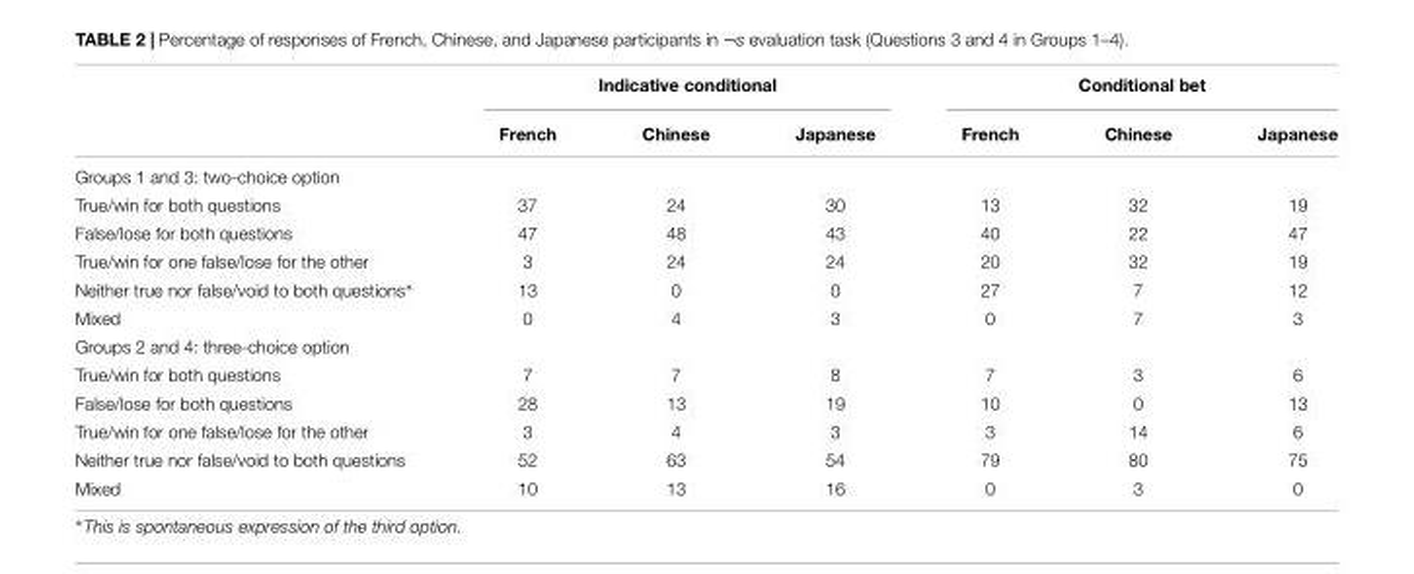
<table><thead><tr><td rowspan="2"></td><td colspan="3">Indicative conditional</td><td colspan="3">Conditional bet</td></tr><tr><td>French</td><td>Chinese</td><td>Japanese</td><td>French</td><td>Chinese</td><td>Japanese</td></tr></thead><tbody><tr><td colspan="7">Groups 1 and 3: two-choice option</td></tr><tr><td>True/win for both questions</td><td>37</td><td>24</td><td>30</td><td>13</td><td>32</td><td>19</td></tr><tr><td>False/lose for both questions</td><td>47</td><td>48</td><td>43</td><td>40</td><td>22</td><td>47</td></tr><tr><td>True/win for one false/lose for the other</td><td>3</td><td>24</td><td>24</td><td>20</td><td>32</td><td>19</td></tr><tr><td>Neither true nor false/void to both questions∗</td><td>13</td><td>0</td><td>0</td><td>27</td><td>7</td><td>12</td></tr><tr><td>Mixed</td><td>0</td><td>4</td><td>3</td><td>0</td><td>7</td><td>3</td></tr><tr><td colspan="7">Groups 2 and 4: three-choice option</td></tr><tr><td>True/win for both questions</td><td>7</td><td>7</td><td>8</td><td>7</td><td>3</td><td>6</td></tr><tr><td>False/lose for both questions</td><td>28</td><td>13</td><td>19</td><td>10</td><td>0</td><td>13</td></tr><tr><td>True/win for one false/lose for the other</td><td>3</td><td>4</td><td>3</td><td>3</td><td>14</td><td>6</td></tr><tr><td>Neither true nor false/void to both questions</td><td>52</td><td>63</td><td>54</td><td>79</td><td>80</td><td>75</td></tr><tr><td>Mixed</td><td>10</td><td>13</td><td>16</td><td>0</td><td>3</td><td>0</td></tr></tbody></table>